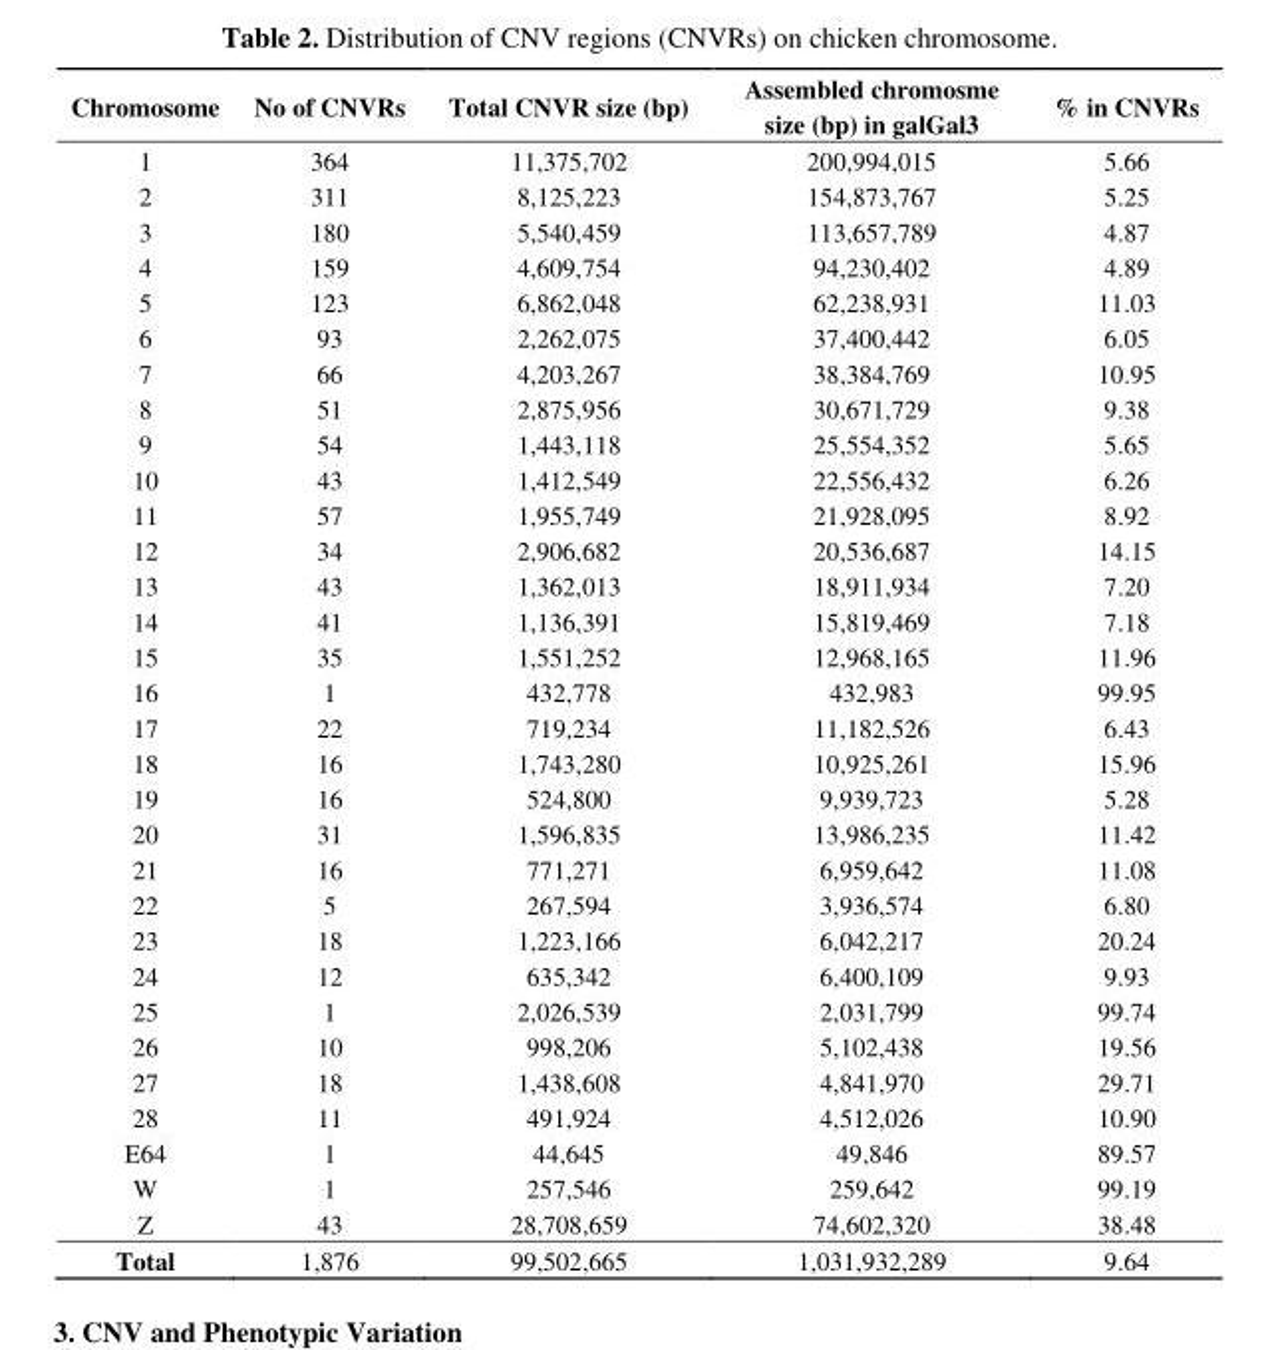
<table><thead><tr><td>Chromosome</td><td>No of CNVRs</td><td>Total CNVR size (bp)</td><td>Assembled chromosme size (bp) in galGal3</td><td>% in CNVRs</td></tr></thead><tbody><tr><td>1</td><td>364</td><td>11,375,702</td><td>200,994,015</td><td>5.66</td></tr><tr><td>2</td><td>311</td><td>8,125,223</td><td>154,873,767</td><td>5.25</td></tr><tr><td>3</td><td>180</td><td>5,540,459</td><td>113,657,789</td><td>4.87</td></tr><tr><td>4</td><td>159</td><td>4,609,754</td><td>94,230,402</td><td>4.89</td></tr><tr><td>5</td><td>123</td><td>6,862,048</td><td>62,238,931</td><td>11.03</td></tr><tr><td>6</td><td>93</td><td>2,262,075</td><td>37,400,442</td><td>6.05</td></tr><tr><td>7</td><td>66</td><td>4,203,267</td><td>38,384,769</td><td>10.95</td></tr><tr><td>8</td><td>51</td><td>2,875,956</td><td>30,671,729</td><td>9.38</td></tr><tr><td>9</td><td>54</td><td>1,443,118</td><td>25,554,352</td><td>5.65</td></tr><tr><td>10</td><td>43</td><td>1,412,549</td><td>22,556,432</td><td>6.26</td></tr><tr><td>11</td><td>57</td><td>1,955,749</td><td>21,928,095</td><td>8.92</td></tr><tr><td>12</td><td>34</td><td>2,906,682</td><td>20,536,687</td><td>14.15</td></tr><tr><td>13</td><td>43</td><td>1,362,013</td><td>18,911,934</td><td>7.20</td></tr><tr><td>14</td><td>41</td><td>1,136,391</td><td>15,819,469</td><td>7.18</td></tr><tr><td>15</td><td>35</td><td>1,551,252</td><td>12,968,165</td><td>11.96</td></tr><tr><td>16</td><td>1</td><td>432,778</td><td>432,983</td><td>99.95</td></tr><tr><td>17</td><td>22</td><td>719,234</td><td>11,182,526</td><td>6.43</td></tr><tr><td>18</td><td>16</td><td>1,743,280</td><td>10,925,261</td><td>15.96</td></tr><tr><td>19</td><td>16</td><td>524,800</td><td>9,939,723</td><td>5.28</td></tr><tr><td>20</td><td>31</td><td>1,596,835</td><td>13,986,235</td><td>11.42</td></tr><tr><td>21</td><td>16</td><td>771,271</td><td>6,959,642</td><td>11.08</td></tr><tr><td>22</td><td>5</td><td>267,594</td><td>3,936,574</td><td>6.80</td></tr><tr><td>23</td><td>18</td><td>1,223,166</td><td>6,042,217</td><td>20.24</td></tr><tr><td>24</td><td>12</td><td>635,342</td><td>6,400,109</td><td>9.93</td></tr><tr><td>25</td><td>1</td><td>2,026,539</td><td>2,031,799</td><td>99.74</td></tr><tr><td>26</td><td>10</td><td>998,206</td><td>5,102,438</td><td>19.56</td></tr><tr><td>27</td><td>18</td><td>1,438,608</td><td>4,841,970</td><td>29.71</td></tr><tr><td>28</td><td>11</td><td>491,924</td><td>4,512,026</td><td>10.90</td></tr><tr><td>E64</td><td>1</td><td>44,645</td><td>49,846</td><td>89.57</td></tr><tr><td>W</td><td>1</td><td>257,546</td><td>259,642</td><td>99.19</td></tr><tr><td>Z</td><td>43</td><td>28,708,659</td><td>74,602,320</td><td>38.48</td></tr><tr><td>Total</td><td>1,876</td><td>99,502,665</td><td>1,031,932,289</td><td>9.64</td></tr></tbody></table>